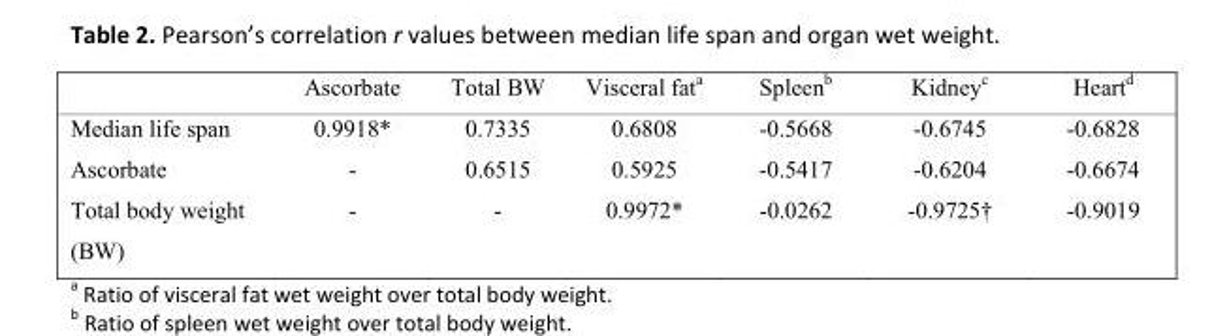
<table><thead><tr><td></td><td>Ascorbate</td><td>Total BW</td><td>Visceral fat<sup>a</sup></td><td>Spleen<sup>b</sup></td><td>Kidney<sup>c</sup></td><td>Heart<sup>d</sup></td></tr></thead><tbody><tr><td>Median life span</td><td>0.9918*</td><td>0.7335</td><td>0.6808</td><td>-0.5668</td><td>-0.6745</td><td>-0.6828</td></tr><tr><td>Ascorbate</td><td>-</td><td>0.6515</td><td>0.5925</td><td>-0.5417</td><td>-0.6204</td><td>-0.6674</td></tr><tr><td>Total body weight (BW)</td><td>-</td><td>-</td><td>0.9972*</td><td>-0.0262</td><td>-0.9725<sup>†</sup></td><td>-0.9019</td></tr></tbody></table>